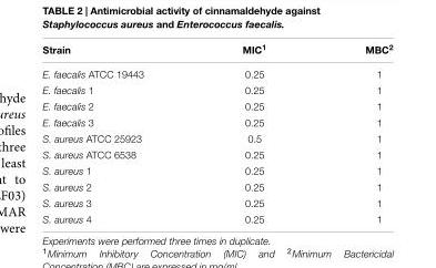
<table><thead><tr><td>Strain</td><td>MIC<sup>1</sup></td><td>MBC<sup>2</sup></td></tr></thead><tbody><tr><td>E. faecalis ATCC 19443</td><td>0.25</td><td>1</td></tr><tr><td>E. faecalis 1</td><td>0.25</td><td>1</td></tr><tr><td>E. faecalis 2</td><td>0.25</td><td>1</td></tr><tr><td>E. faecalis 3</td><td>0.25</td><td>1</td></tr><tr><td>S. aureus ATCC 25923</td><td>0.5</td><td>1</td></tr><tr><td>S. aureus ATCC 6538</td><td>0.25</td><td>1</td></tr><tr><td>S. aureus 1</td><td>0.25</td><td>1</td></tr><tr><td>S. aureus 2</td><td>0.25</td><td>1</td></tr><tr><td>S. aureus 3</td><td>0.25</td><td>1</td></tr><tr><td>S. aureus 4</td><td>0.25</td><td>1</td></tr></tbody></table>